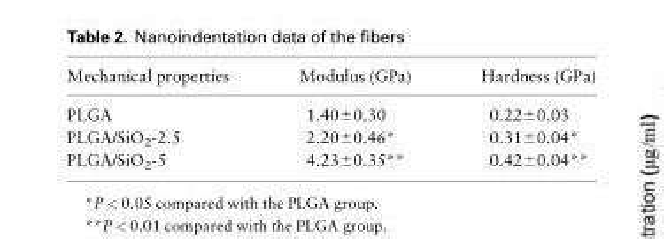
<table><thead><tr><td>Mechanical properties</td><td>Modulus (GPa)</td><td>Hardness (GPa)</td></tr></thead><tbody><tr><td>PLGA</td><td>1.40±0.30</td><td>0.22±0.03</td></tr><tr><td>PLGA/SiO<sub>2</sub>-2.5</td><td>2.20±0.46*</td><td>0.31±0.04*</td></tr><tr><td>PLGA/SiO<sub>2</sub>-5</td><td>4.23±0.35**</td><td>0.42±0.04**</td></tr></tbody></table>